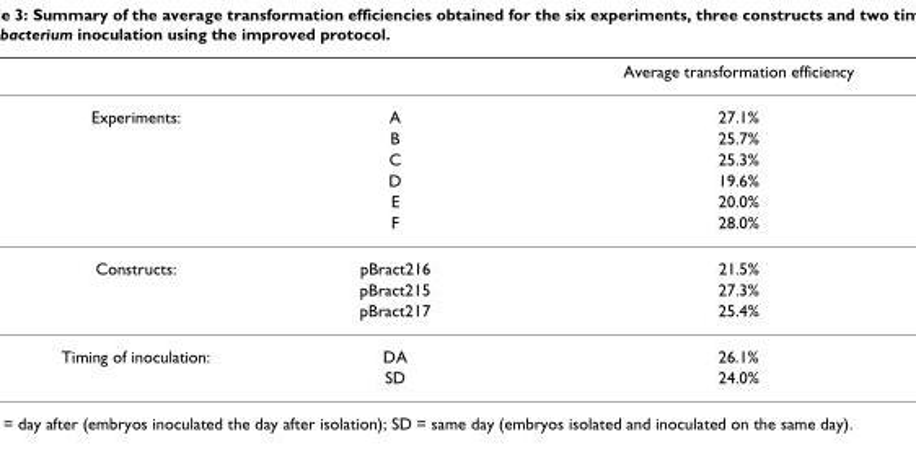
<table><thead><tr><td></td><td></td><td>Average transformation efficiency</td></tr></thead><tbody><tr><td rowspan="6">Experiments:</td><td>A</td><td>27.1%</td></tr><tr><td>B</td><td>25.7%</td></tr><tr><td>C</td><td>25.3%</td></tr><tr><td>D</td><td>19.6%</td></tr><tr><td>E</td><td>20.0%</td></tr><tr><td>F</td><td>28.0%</td></tr><tr><td rowspan="3">Constructs:</td><td>pBract216</td><td>21.5%</td></tr><tr><td>pBract215</td><td>27.3%</td></tr><tr><td>pBract217</td><td>25.4%</td></tr><tr><td rowspan="2">Timing of inoculation:</td><td>DA</td><td>26.1%</td></tr><tr><td>SD</td><td>24.0%</td></tr></tbody></table>